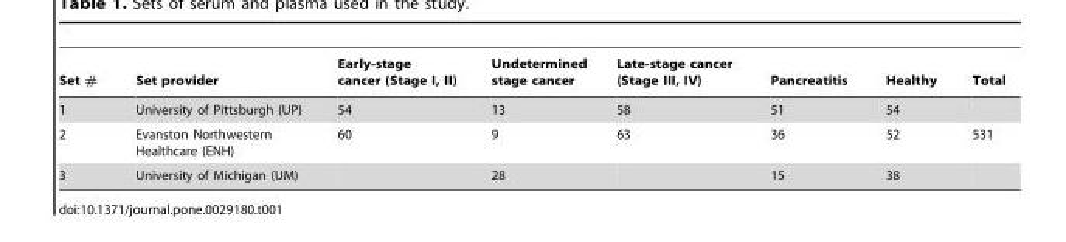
<table><thead><tr><td>Set #</td><td>Set provider</td><td>Early-stage cancer (Stage I, II)</td><td>Undetermined stage cancer</td><td>Late-stage cancer (Stage III, IV)</td><td>Pancreatitis</td><td>Healthy</td><td>Total</td></tr></thead><tbody><tr><td>1</td><td>University of Pittsburgh (UP)</td><td>54</td><td>13</td><td>58</td><td>51</td><td>54</td><td></td></tr><tr><td>2</td><td>Evanston Northwestern Healthcare (ENH)</td><td>60</td><td>9</td><td>63</td><td>36</td><td>52</td><td>531</td></tr><tr><td>3</td><td>University of Michigan (UM)</td><td></td><td>28</td><td></td><td>15</td><td>38</td><td></td></tr></tbody></table>